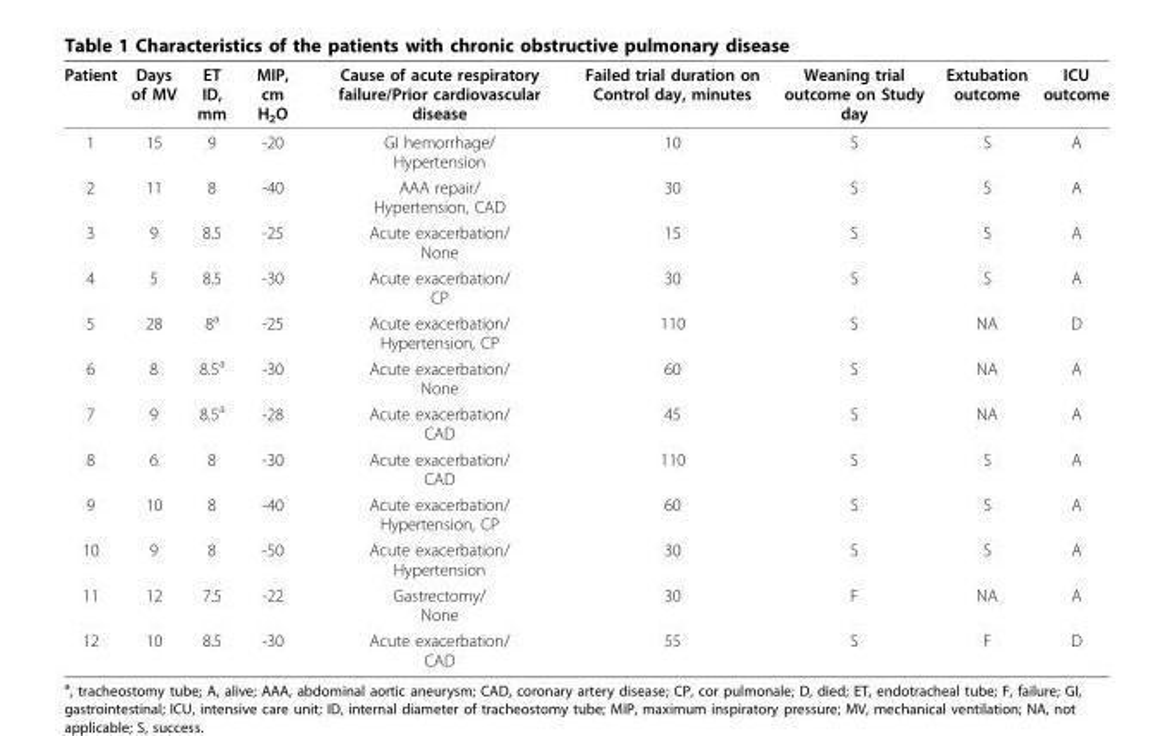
<table><thead><tr><td>Patient</td><td>Days of MV</td><td>ET ID, mm</td><td>MIP, cm H<sub>2</sub>O</td><td>Cause of acute respiratory failure/Prior cardiovascular disease</td><td>Failed trial duration on Control day, minutes</td><td>Weaning trial outcome on Study day</td><td>Extubation outcome</td><td>ICU outcome</td></tr></thead><tbody><tr><td>1</td><td>15</td><td>9</td><td>-20</td><td>GI hemorrhage/ Hypertension</td><td>10</td><td>S</td><td>S</td><td>A</td></tr><tr><td>2</td><td>11</td><td>8</td><td>-40</td><td>AAA repair/ Hypertension, CAD</td><td>30</td><td>S</td><td>S</td><td>A</td></tr><tr><td>3</td><td>9</td><td>8.5</td><td>-25</td><td>Acute exacerbation/ None</td><td>15</td><td>S</td><td>S</td><td>A</td></tr><tr><td>4</td><td>5</td><td>8.5</td><td>-30</td><td>Acute exacerbation/ CP</td><td>30</td><td>S</td><td>S</td><td>A</td></tr><tr><td>5</td><td>28</td><td>8<sup>a</sup></td><td>-25</td><td>Acute exacerbation/ Hypertension, CP</td><td>110</td><td>S</td><td>NA</td><td>D</td></tr><tr><td>6</td><td>8</td><td>8.5<sup>a</sup></td><td>-30</td><td>Acute exacerbation/ None</td><td>60</td><td>S</td><td>NA</td><td>A</td></tr><tr><td>7</td><td>9</td><td>8.5<sup>a</sup></td><td>-28</td><td>Acute exacerbation/ CAD</td><td>45</td><td>S</td><td>NA</td><td>A</td></tr><tr><td>8</td><td>6</td><td>8</td><td>-30</td><td>Acute exacerbation/ CAD</td><td>110</td><td>S</td><td>S</td><td>A</td></tr><tr><td>9</td><td>10</td><td>8</td><td>-40</td><td>Acute exacerbation/ Hypertension, CP</td><td>60</td><td>S</td><td>S</td><td>A</td></tr><tr><td>10</td><td>9</td><td>8</td><td>-50</td><td>Acute exacerbation/ Hypertension</td><td>30</td><td>S</td><td>S</td><td>A</td></tr><tr><td>11</td><td>12</td><td>7.5</td><td>-22</td><td>Gastrectomy/ None</td><td>30</td><td>F</td><td>NA</td><td>A</td></tr><tr><td>12</td><td>10</td><td>8.5</td><td>-30</td><td>Acute exacerbation/ CAD</td><td>55</td><td>S</td><td>F</td><td>D</td></tr></tbody></table>